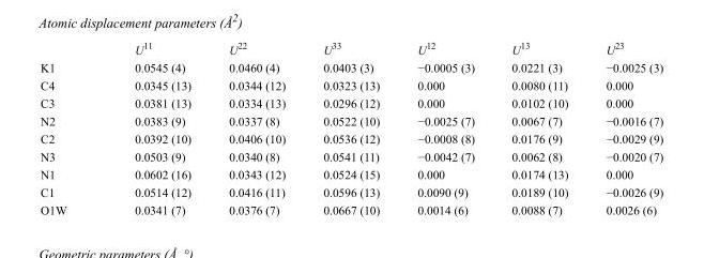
<table><thead><tr><td></td><td>U<sup>11</sup></td><td>U<sup>22</sup></td><td>U<sup>33</sup></td><td>U<sup>12</sup></td><td>U<sup>13</sup></td><td>U<sup>23</sup></td></tr></thead><tbody><tr><td>K1</td><td>0.0545 (4)</td><td>0.0460 (4)</td><td>0.0403 (3)</td><td>−0.0005 (3)</td><td>0.0221 (3)</td><td>−0.0025 (3)</td></tr><tr><td>C4</td><td>0.0345 (13)</td><td>0.0344 (12)</td><td>0.0323 (13)</td><td>0.000</td><td>0.0080 (11)</td><td>0.000</td></tr><tr><td>C3</td><td>0.0381 (13)</td><td>0.0334 (13)</td><td>0.0296 (12)</td><td>0.000</td><td>0.0102 (10)</td><td>0.000</td></tr><tr><td>N2</td><td>0.0383 (9)</td><td>0.0337 (8)</td><td>0.0522 (10)</td><td>−0.0025 (7)</td><td>0.0067 (7)</td><td>−0.0016 (7)</td></tr><tr><td>C2</td><td>0.0392 (10)</td><td>0.0406 (10)</td><td>0.0536 (12)</td><td>−0.0008 (8)</td><td>0.0176 (9)</td><td>−0.0029 (9)</td></tr><tr><td>N3</td><td>0.0503 (9)</td><td>0.0340 (8)</td><td>0.0541 (11)</td><td>−0.0042 (7)</td><td>0.0062 (8)</td><td>−0.0020 (7)</td></tr><tr><td>N1</td><td>0.0602 (16)</td><td>0.0343 (12)</td><td>0.0524 (15)</td><td>0.000</td><td>0.0174 (13)</td><td>0.000</td></tr><tr><td>C1</td><td>0.0514 (12)</td><td>0.0416 (11)</td><td>0.0596 (13)</td><td>0.0090 (9)</td><td>0.0189 (10)</td><td>−0.0026 (9)</td></tr><tr><td>O1W</td><td>0.0341 (7)</td><td>0.0376 (7)</td><td>0.0667 (10)</td><td>0.0014 (6)</td><td>0.0088 (7)</td><td>0.0026 (6)</td></tr></tbody></table>